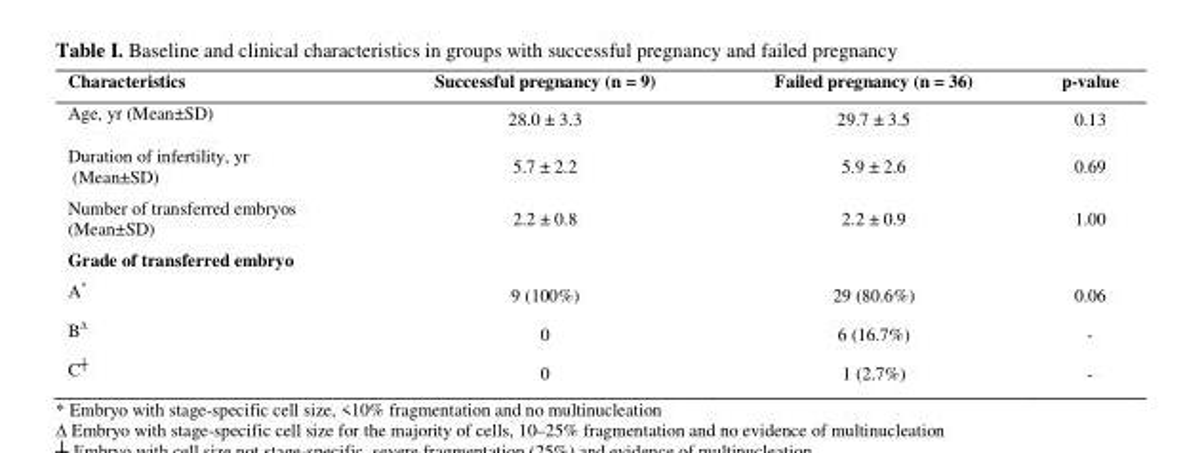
<table><thead><tr><td>Characteristics</td><td>Successful pregnancy (n = 9)</td><td>Failed pregnancy (n = 36)</td><td>p-value</td></tr></thead><tbody><tr><td>Age, yr (Mean±SD)</td><td>28.0 ± 3.3</td><td>29.7 ± 3.5</td><td>0.13</td></tr><tr><td>Duration of infertility, yr (Mean±SD)</td><td>5.7 ± 2.2</td><td>5.9 ± 2.6</td><td>0.69</td></tr><tr><td>Number of transferred embryos (Mean±SD)</td><td>2.2 ± 0.8</td><td>2.2 ± 0.9</td><td>1.00</td></tr><tr><td colspan="4">Grade of transferred embryo</td></tr><tr><td>A*</td><td>9 (100%)</td><td>29 (80.6%)</td><td>0.06</td></tr><tr><td>B∆</td><td>0</td><td>6 (16.7%)</td><td>-</td></tr><tr><td>C┼</td><td>0</td><td>1 (2.7%)</td><td>-</td></tr></tbody></table>